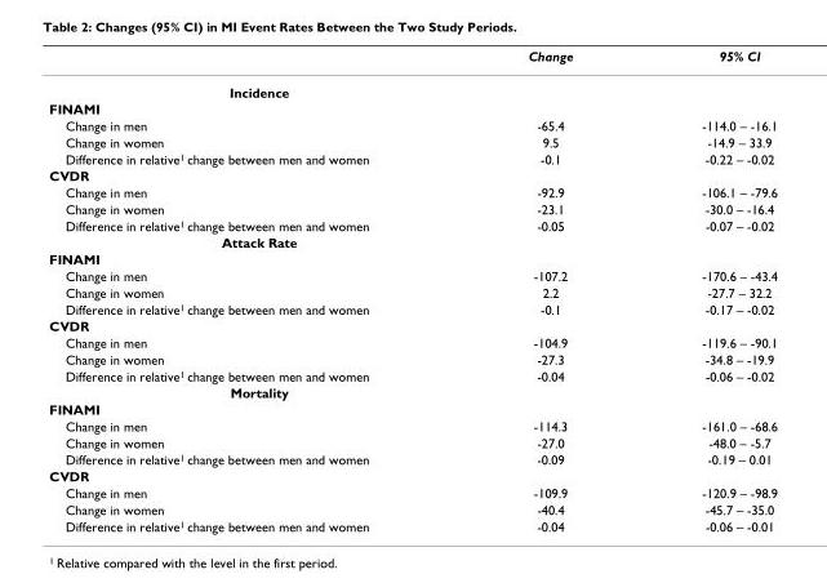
<table><thead><tr><td></td><td>Change</td><td>95% CI</td></tr></thead><tbody><tr><td colspan="3">Incidence</td></tr><tr><td colspan="3">FINAMI</td></tr><tr><td>Change in men</td><td>-65.4</td><td>-114.0 – -16.1</td></tr><tr><td>Change in women</td><td>9.5</td><td>-14.9 – 33.9</td></tr><tr><td>Difference in relative<sup>1</sup> change between men and women</td><td>-0.1</td><td>-0.22 – -0.02</td></tr><tr><td colspan="3">CVDR</td></tr><tr><td>Change in men</td><td>-92.9</td><td>-106.1 – -79.6</td></tr><tr><td>Change in women</td><td>-23.1</td><td>-30.0 – -16.4</td></tr><tr><td>Difference in relative<sup>1</sup> change between men and women</td><td>-0.05</td><td>-0.07 – -0.02</td></tr><tr><td colspan="3">Attack Rate</td></tr><tr><td colspan="3">FINAMI</td></tr><tr><td>Change in men</td><td>-107.2</td><td>-170.6 – -43.4</td></tr><tr><td>Change in women</td><td>2.2</td><td>-27.7 – 32.2</td></tr><tr><td>Difference in relative<sup>1</sup> change between men and women</td><td>-0.1</td><td>-0.17 – -0.02</td></tr><tr><td colspan="3">CVDR</td></tr><tr><td>Change in men</td><td>-104.9</td><td>-119.6 – -90.1</td></tr><tr><td>Change in women</td><td>-27.3</td><td>-34.8 – -19.9</td></tr><tr><td>Difference in relative<sup>1</sup> change between men and women</td><td>-0.04</td><td>-0.06 – -0.02</td></tr><tr><td colspan="3">Mortality</td></tr><tr><td colspan="3">FINAMI</td></tr><tr><td>Change in men</td><td>-114.3</td><td>-161.0 – -68.6</td></tr><tr><td>Change in women</td><td>-27.0</td><td>-48.0 – -5.7</td></tr><tr><td>Difference in relative<sup>1</sup> change between men and women</td><td>-0.09</td><td>-0.19 – 0.01</td></tr><tr><td colspan="3">CVDR</td></tr><tr><td>Change in men</td><td>-109.9</td><td>-120.9 – -98.9</td></tr><tr><td>Change in women</td><td>-40.4</td><td>-45.7 – -35.0</td></tr><tr><td>Difference in relative<sup>1</sup> change between men and women</td><td>-0.04</td><td>-0.06 – -0.01</td></tr></tbody></table>